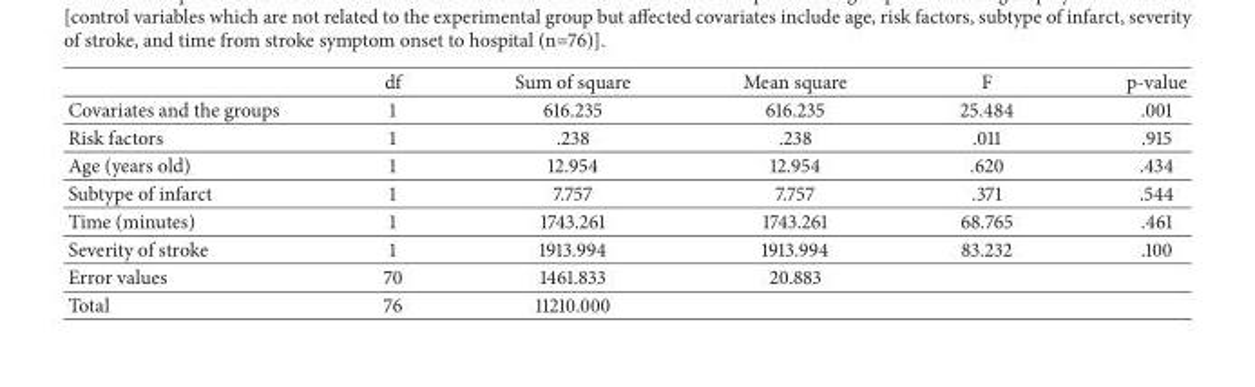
<table><thead><tr><td></td><td>df</td><td>Sum of square</td><td>Mean square</td><td>F</td><td>p-value</td></tr></thead><tbody><tr><td>Covariates and the groups</td><td>1</td><td>616.235</td><td>616.235</td><td>25.484</td><td>.001</td></tr><tr><td>Risk factors</td><td>1</td><td>.238</td><td>.238</td><td>.011</td><td>.915</td></tr><tr><td>Age (years old)</td><td>1</td><td>12.954</td><td>12.954</td><td>.620</td><td>.434</td></tr><tr><td>Subtype of infarct</td><td>1</td><td>7.757</td><td>7.757</td><td>.371</td><td>.544</td></tr><tr><td>Time (minutes)</td><td>1</td><td>1743.261</td><td>1743.261</td><td>68.765</td><td>.461</td></tr><tr><td>Severity of stroke</td><td>1</td><td>1913.994</td><td>1913.994</td><td>83.232</td><td>.100</td></tr><tr><td>Error values</td><td>70</td><td>1461.833</td><td>20.883</td><td></td><td></td></tr><tr><td>Total</td><td>76</td><td>11210.000</td><td></td><td></td><td></td></tr></tbody></table>